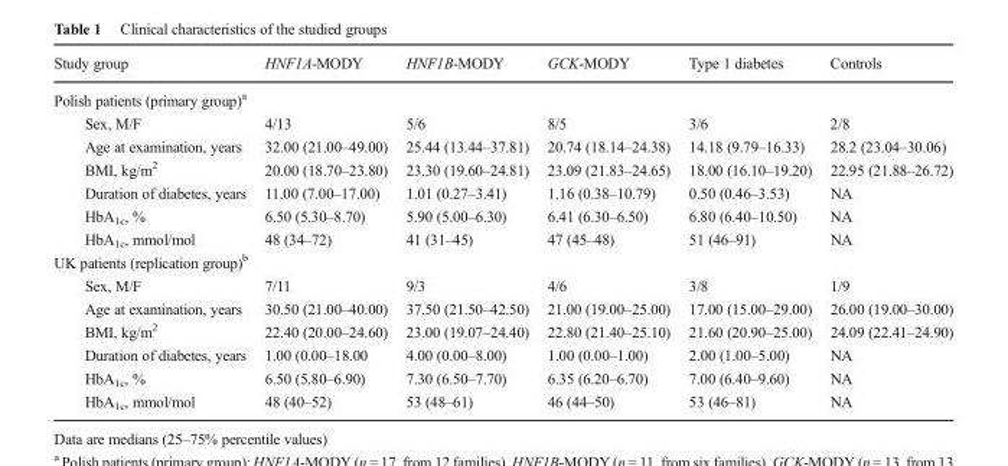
<table><thead><tr><td>Study group</td><td>HNF1A-MODY</td><td>HNF1B-MODY</td><td>GCK-MODY</td><td>Type 1 diabetes</td><td>Controls</td></tr></thead><tbody><tr><td colspan="6">Polish patients (primary group)<sup>a</sup></td></tr><tr><td>Sex, M/F</td><td>4/13</td><td>5/6</td><td>8/5</td><td>3/6</td><td>2/8</td></tr><tr><td>Age at examination, years</td><td>32.00 (21.00–49.00)</td><td>25.44 (13.44–37.81)</td><td>20.74 (18.14–24.38)</td><td>14.18 (9.79–16.33)</td><td>28.2 (23.04–30.06)</td></tr><tr><td>BMI, kg/m<sup>2</sup></td><td>20.00 (18.70–23.80)</td><td>23.30 (19.60–24.81)</td><td>23.09 (21.83–24.65)</td><td>18.00 (16.10–19.20)</td><td>22.95 (21.88–26.72)</td></tr><tr><td>Duration of diabetes, years</td><td>11.00 (7.00–17.00)</td><td>1.01 (0.27–3.41)</td><td>1.16 (0.38–10.79)</td><td>0.50 (0.46–3.53)</td><td>NA</td></tr><tr><td>HbA<sub>1c</sub>, %</td><td>6.50 (5.30–8.70)</td><td>5.90 (5.00–6.30)</td><td>6.41 (6.30–6.50)</td><td>6.80 (6.40–10.50)</td><td>NA</td></tr><tr><td>HbA<sub>1c</sub>, mmol/mol</td><td>48 (34–72)</td><td>41 (31–45)</td><td>47 (45–48)</td><td>51 (46–91)</td><td>NA</td></tr><tr><td colspan="6">UK patients (replication group)<sup>b</sup></td></tr><tr><td>Sex, M/F</td><td>7/11</td><td>9/3</td><td>4/6</td><td>3/8</td><td>1/9</td></tr><tr><td>Age at examination, years</td><td>30.50 (21.00–40.00)</td><td>37.50 (21.50–42.50)</td><td>21.00 (19.00–25.00)</td><td>17.00 (15.00–29.00)</td><td>26.00 (19.00–30.00)</td></tr><tr><td>BMI, kg/m<sup>2</sup></td><td>22.40 (20.00–24.60)</td><td>23.00 (19.07–24.40)</td><td>22.80 (21.40–25.10)</td><td>21.60 (20.90–25.00)</td><td>24.09 (22.41–24.90)</td></tr><tr><td>Duration of diabetes, years</td><td>1.00 (0.00–18.00</td><td>4.00 (0.00–8.00)</td><td>1.00 (0.00–1.00)</td><td>2.00 (1.00–5.00)</td><td>NA</td></tr><tr><td>HbA<sub>1c</sub>, %</td><td>6.50 (5.80–6.90)</td><td>7.30 (6.50–7.70)</td><td>6.35 (6.20–6.70)</td><td>7.00 (6.40–9.60)</td><td>NA</td></tr><tr><td>HbA<sub>1c</sub>, mmol/mol</td><td>48 (40–52)</td><td>53 (48–61)</td><td>46 (44–50)</td><td>53 (46–81)</td><td>NA</td></tr></tbody></table>